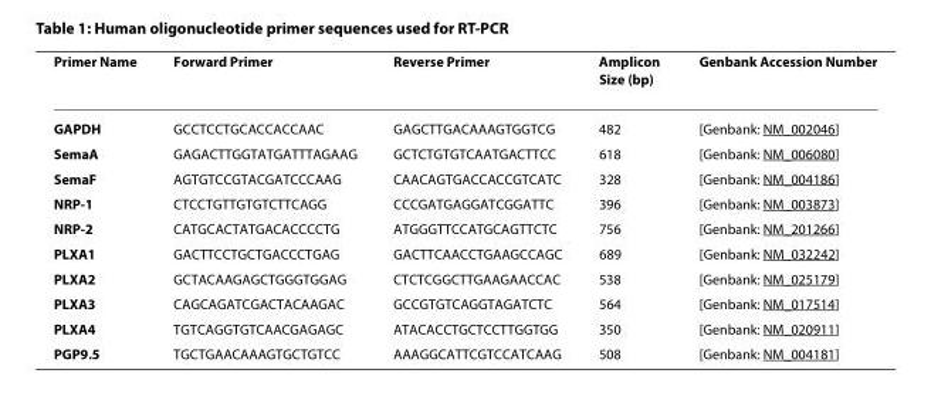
<table><thead><tr><td>Primer Name</td><td>Forward Primer</td><td>Reverse Primer</td><td>Amplicon Size (bp)</td><td>Genbank Accession Number</td></tr></thead><tbody><tr><td>GAPDH</td><td>GCCTCCTGCACCACCAAC</td><td>GAGCTTGACAAAGTGGTCG</td><td>482</td><td>[Genbank: NM_002046]</td></tr><tr><td>SemaA</td><td>GAGACTTGGTATGATTTAGAAG</td><td>GCTCTGTGTCAATGACTTCC</td><td>618</td><td>[Genbank: NM_006080]</td></tr><tr><td>SemaF</td><td>AGTGTCCGTACGATCCCAAG</td><td>CAACAGTGACCACCGTCATC</td><td>328</td><td>[Genbank: NM_004186]</td></tr><tr><td>NRP-1</td><td>CTCCTGTTGTGTCTTCAGG</td><td>CCCGATGAGGATCGGATTC</td><td>396</td><td>[Genbank: NM_003873]</td></tr><tr><td>NRP-2</td><td>CATGCACTATGACACCCCTG</td><td>ATGGGTTCCATGCAGTTCTC</td><td>756</td><td>[Genbank: NM_201266]</td></tr><tr><td>PLXA1</td><td>GACTTCCTGCTGACCCTGAG</td><td>GACTTCAACCTGAAGCCAGC</td><td>689</td><td>[Genbank: NM_032242]</td></tr><tr><td>PLXA2</td><td>GCTACAAGAGCTGGGTGGAG</td><td>CTCTCGGCTTGAAGAACCAC</td><td>538</td><td>[Genbank: NM_025179]</td></tr><tr><td>PLXA3</td><td>CAGCAGATCGACTACAAGAC</td><td>GCCGTGTCAGGTAGATCTC</td><td>564</td><td>[Genbank: NM_017514]</td></tr><tr><td>PLXA4</td><td>TGTCAGGTGTCAACGAGAGC</td><td>ATACACCTGCTCCTTGGTGG</td><td>350</td><td>[Genbank: NM_020911]</td></tr><tr><td>PGP9.5</td><td>TGCTGAACAAAGTGCTGTCC</td><td>AAAGGCATTCGTCCATCAAG</td><td>508</td><td>[Genbank: NM_004181]</td></tr></tbody></table>